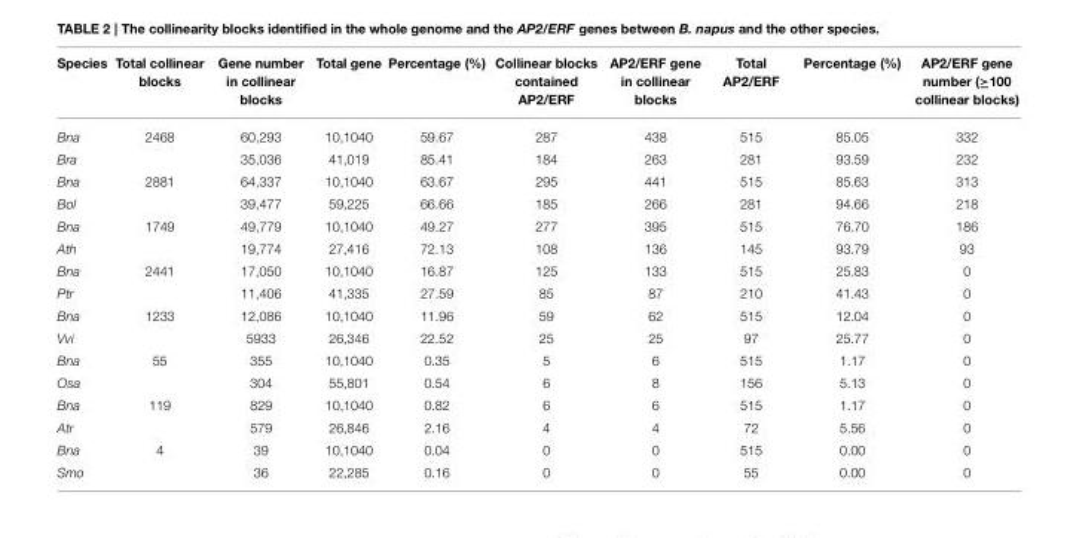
<table><thead><tr><td>Species</td><td>Total collinear blocks</td><td>Gene number in collinear blocks</td><td>Total gene</td><td>Percentage (%)</td><td>Collinear blocks contained AP2/ERF</td><td>AP2/ERF gene in collinear blocks</td><td>Total AP2/ERF</td><td>Percentage (%)</td><td>AP2/ERF gene number (≥100 collinear blocks)</td></tr></thead><tbody><tr><td>Bna</td><td>2468</td><td>60,293</td><td>10,1040</td><td>59.67</td><td>287</td><td>438</td><td>515</td><td>85.05</td><td>332</td></tr><tr><td>Bra</td><td></td><td>35,036</td><td>41,019</td><td>85.41</td><td>184</td><td>263</td><td>281</td><td>93.59</td><td>232</td></tr><tr><td>Bna</td><td>2881</td><td>64,337</td><td>10,1040</td><td>63.67</td><td>295</td><td>441</td><td>515</td><td>85.63</td><td>313</td></tr><tr><td>Bol</td><td></td><td>39,477</td><td>59,225</td><td>66.66</td><td>185</td><td>266</td><td>281</td><td>94.66</td><td>218</td></tr><tr><td>Bna</td><td>1749</td><td>49,779</td><td>10,1040</td><td>49.27</td><td>277</td><td>395</td><td>515</td><td>76.70</td><td>186</td></tr><tr><td>Ath</td><td></td><td>19,774</td><td>27,416</td><td>72.13</td><td>108</td><td>136</td><td>145</td><td>93.79</td><td>93</td></tr><tr><td>Bna</td><td>2441</td><td>17,050</td><td>10,1040</td><td>16.87</td><td>125</td><td>133</td><td>515</td><td>25.83</td><td>0</td></tr><tr><td>Ptr</td><td></td><td>11,406</td><td>41,335</td><td>27.59</td><td>85</td><td>87</td><td>210</td><td>41.43</td><td>0</td></tr><tr><td>Bna</td><td>1233</td><td>12,086</td><td>10,1040</td><td>11.96</td><td>59</td><td>62</td><td>515</td><td>12.04</td><td>0</td></tr><tr><td>Vvi</td><td></td><td>5933</td><td>26,346</td><td>22.52</td><td>25</td><td>25</td><td>97</td><td>25.77</td><td>0</td></tr><tr><td>Bna</td><td>55</td><td>355</td><td>10,1040</td><td>0.35</td><td>5</td><td>6</td><td>515</td><td>1.17</td><td>0</td></tr><tr><td>Osa</td><td></td><td>304</td><td>55,801</td><td>0.54</td><td>6</td><td>8</td><td>156</td><td>5.13</td><td>0</td></tr><tr><td>Bna</td><td>119</td><td>829</td><td>10,1040</td><td>0.82</td><td>6</td><td>6</td><td>515</td><td>1.17</td><td>0</td></tr><tr><td>Atr</td><td></td><td>579</td><td>26,846</td><td>2.16</td><td>4</td><td>4</td><td>72</td><td>5.56</td><td>0</td></tr><tr><td>Bna</td><td>4</td><td>39</td><td>10,1040</td><td>0.04</td><td>0</td><td>0</td><td>515</td><td>0.00</td><td>0</td></tr><tr><td>Smo</td><td></td><td>36</td><td>22,285</td><td>0.16</td><td>0</td><td>0</td><td>55</td><td>0.00</td><td>0</td></tr></tbody></table>